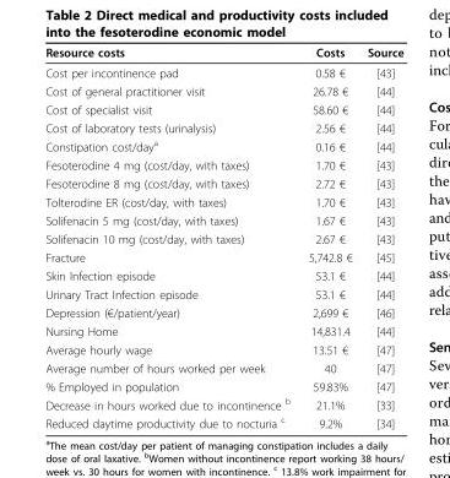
<table><thead><tr><td>Resource costs</td><td>Costs</td><td>Source</td></tr></thead><tbody><tr><td>Cost per incontinence pad</td><td>0.58 €</td><td>[43]</td></tr><tr><td>Cost of general practitioner visit</td><td>26.78 €</td><td>[44]</td></tr><tr><td>Cost of specialist visit</td><td>58.60 €</td><td>[44]</td></tr><tr><td>Cost of laboratory tests (urinalysis)</td><td>2.56 €</td><td>[44]</td></tr><tr><td>Constipation cost/day<sup>a</sup></td><td>0.16 €</td><td>[44]</td></tr><tr><td>Fesoterodine 4 mg (cost/day, with taxes)</td><td>1.70 €</td><td>[43]</td></tr><tr><td>Fesoterodine 8 mg (cost/day, with taxes)</td><td>2.72 €</td><td>[43]</td></tr><tr><td>Tolterodine ER (cost/day, with taxes)</td><td>1.70 €</td><td>[43]</td></tr><tr><td>Solifenacin 5 mg (cost/day, with taxes)</td><td>1.67 €</td><td>[43]</td></tr><tr><td>Solifenacin 10 mg (cost/day, with taxes)</td><td>2.67 €</td><td>[43]</td></tr><tr><td>Fracture</td><td>5,742.8 €</td><td>[45]</td></tr><tr><td>Skin Infection episode</td><td>53.1 €</td><td>[44]</td></tr><tr><td>Urinary Tract Infection episode</td><td>53.1 €</td><td>[44]</td></tr><tr><td>Depression (€/patient/year)</td><td>2,699 €</td><td>[46]</td></tr><tr><td>Nursing Home</td><td>14,831.4</td><td>[44]</td></tr><tr><td>Average hourly wage</td><td>13.51 €</td><td>[47]</td></tr><tr><td>Average number of hours worked per week</td><td>40</td><td>[47]</td></tr><tr><td>% Employed in population</td><td>59.83%</td><td>[47]</td></tr><tr><td>Decrease in hours worked due to incontinence <sup>b</sup></td><td>21.1%</td><td>[33]</td></tr><tr><td>Reduced daytime productivity due to nocturia <sup>c</sup></td><td>9.2%</td><td>[34]</td></tr></tbody></table>